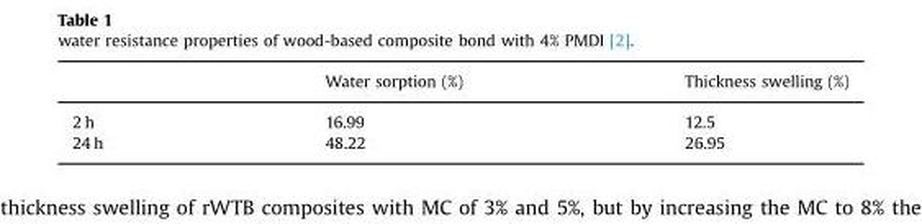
<table><thead><tr><td></td><td>Water sorption (%)</td><td>Thickness swelling (%)</td></tr></thead><tbody><tr><td>2 h</td><td>16.99</td><td>12.5</td></tr><tr><td>24 h</td><td>48.22</td><td>26.95</td></tr></tbody></table>